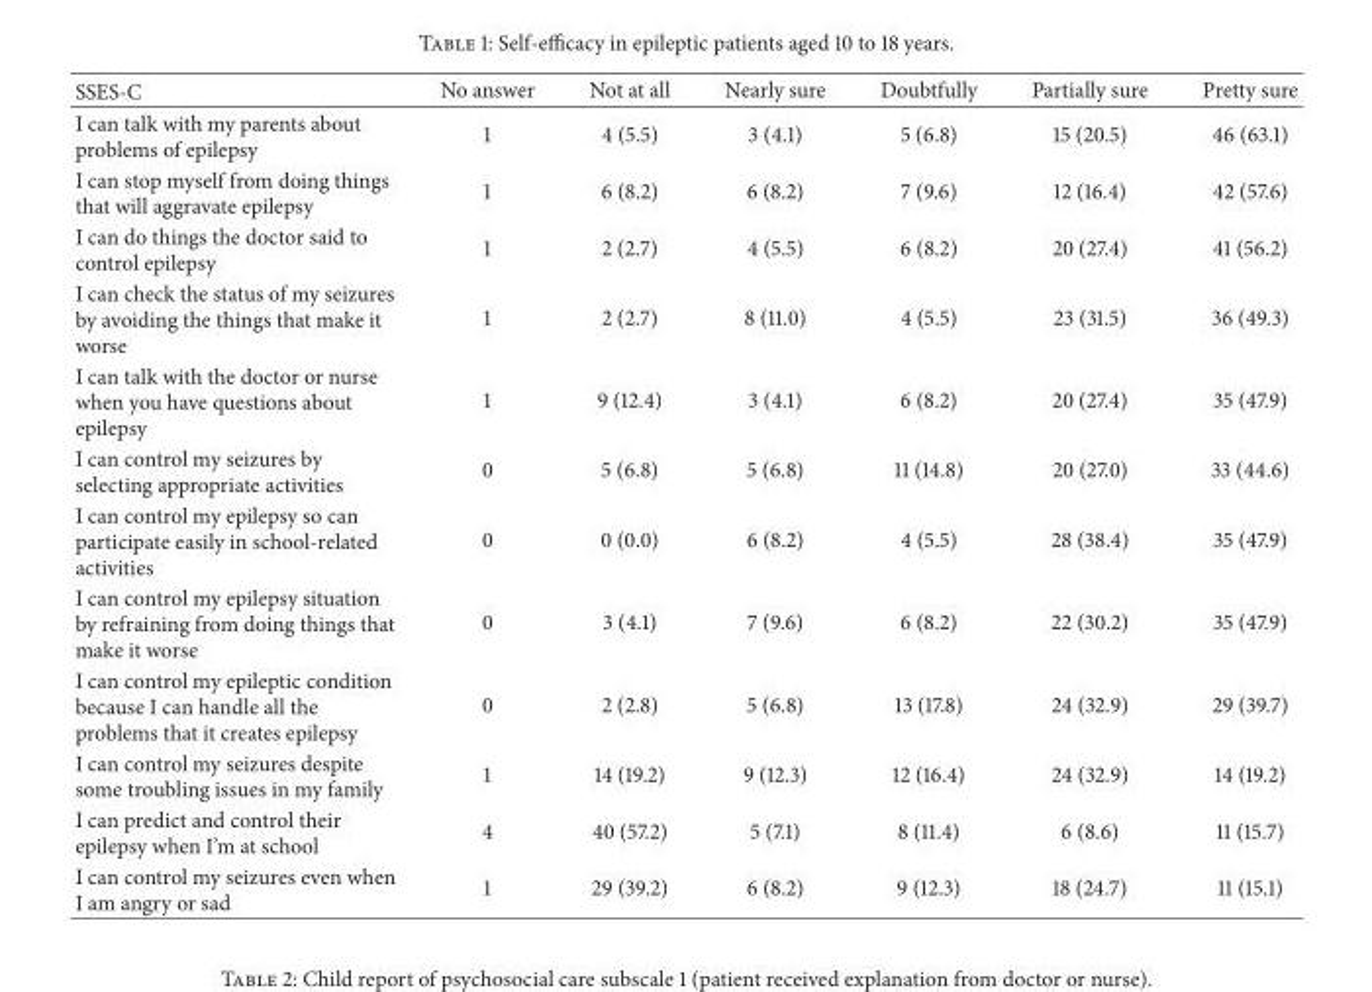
<table><thead><tr><td>SSES-C</td><td>No answer</td><td>Not at all</td><td>Nearly sure</td><td>Doubtfully</td><td>Partially sure</td><td>Pretty sure</td></tr></thead><tbody><tr><td>I can talk with my parents about problems of epilepsy</td><td>1</td><td>4 (5.5)</td><td>3 (4.1)</td><td>5 (6.8)</td><td>15 (20.5)</td><td>46 (63.1)</td></tr><tr><td>I can stop myself from doing things that will aggravate epilepsy</td><td>1</td><td>6 (8.2)</td><td>6 (8.2)</td><td>7 (9.6)</td><td>12 (16.4)</td><td>42 (57.6)</td></tr><tr><td>I can do things the doctor said to control epilepsy</td><td>1</td><td>2 (2.7)</td><td>4 (5.5)</td><td>6 (8.2)</td><td>20 (27.4)</td><td>41 (56.2)</td></tr><tr><td>I can check the status of my seizures by avoiding the things that make it worse</td><td>1</td><td>2 (2.7)</td><td>8 (11.0)</td><td>4 (5.5)</td><td>23 (31.5)</td><td>36 (49.3)</td></tr><tr><td>I can talk with the doctor or nurse when you have questions about epilepsy</td><td>1</td><td>9 (12.4)</td><td>3 (4.1)</td><td>6 (8.2)</td><td>20 (27.4)</td><td>35 (47.9)</td></tr><tr><td>I can control my seizures by selecting appropriate activities</td><td>0</td><td>5 (6.8)</td><td>5 (6.8)</td><td>11 (14.8)</td><td>20 (27.0)</td><td>33 (44.6)</td></tr><tr><td>I can control my epilepsy so can participate easily in school-related activities</td><td>0</td><td>0 (0.0)</td><td>6 (8.2)</td><td>4 (5.5)</td><td>28 (38.4)</td><td>35 (47.9)</td></tr><tr><td>I can control my epilepsy situation by refraining from doing things that make it worse</td><td>0</td><td>3 (4.1)</td><td>7 (9.6)</td><td>6 (8.2)</td><td>22 (30.2)</td><td>35 (47.9)</td></tr><tr><td>I can control my epileptic condition because I can handle all the problems that it creates epilepsy</td><td>0</td><td>2 (2.8)</td><td>5 (6.8)</td><td>13 (17.8)</td><td>24 (32.9)</td><td>29 (39.7)</td></tr><tr><td>I can control my seizures despite some troubling issues in my family</td><td>1</td><td>14 (19.2)</td><td>9 (12.3)</td><td>12 (16.4)</td><td>24 (32.9)</td><td>14 (19.2)</td></tr><tr><td>I can predict and control their epilepsy when I’m at school</td><td>4</td><td>40 (57.2)</td><td>5 (7.1)</td><td>8 (11.4)</td><td>6 (8.6)</td><td>11 (15.7)</td></tr><tr><td>I can control my seizures even when I am angry or sad</td><td>1</td><td>29 (39.2)</td><td>6 (8.2)</td><td>9 (12.3)</td><td>18 (24.7)</td><td>11 (15.1)</td></tr></tbody></table>